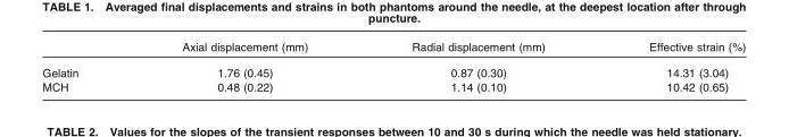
<table><thead><tr><td></td><td>Axial displacement (mm)</td><td>Radial displacement (mm)</td><td>Effective strain (%)</td></tr></thead><tbody><tr><td>Gelatin</td><td>1.76 (0.45)</td><td>0.87 (0.30)</td><td>14.31 (3.04)</td></tr><tr><td>MCH</td><td>0.48 (0.22)</td><td>1.14 (0.10)</td><td>10.42 (0.65)</td></tr></tbody></table>